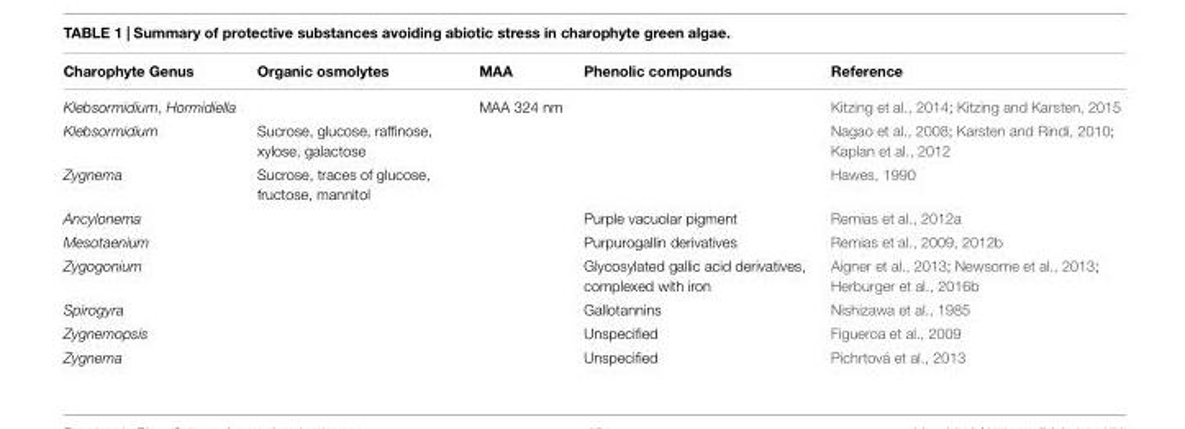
<table><thead><tr><td>Charophyte Genus</td><td>Organic osmolytes</td><td>MAA</td><td>Phenolic compounds</td><td>Reference</td></tr></thead><tbody><tr><td>Klebsormidium, Hormidiella</td><td></td><td>MAA 324 nm</td><td></td><td>Kitzing et al., 2014; Kitzing and Karsten, 2015</td></tr><tr><td>Klebsormidium</td><td>Sucrose, glucose, raffinose, xylose, galactose</td><td></td><td></td><td>Nagao et al., 2008; Karsten and Rindi, 2010; Kaplan et al., 2012</td></tr><tr><td>Zygnema</td><td>Sucrose, traces of glucose, fructose, mannitol</td><td></td><td></td><td>Hawes, 1990</td></tr><tr><td>Ancylonema</td><td></td><td></td><td>Purple vacuolar pigment</td><td>Remias et al., 2012a</td></tr><tr><td>Mesotaenium</td><td></td><td></td><td>Purpurogallin derivatives</td><td>Remias et al., 2009, 2012b</td></tr><tr><td>Zygogonium</td><td></td><td></td><td>Glycosylated gallic acid derivatives, complexed with iron</td><td>Aigner et al., 2013; Newsome et al., 2013; Herburger et al., 2016b</td></tr><tr><td>Spirogyra</td><td></td><td></td><td>Gallotannins</td><td>Nishizawa et al., 1985</td></tr><tr><td>Zygnemopsis</td><td></td><td></td><td>Unspecified</td><td>Figueroa et al., 2009</td></tr><tr><td>Zygnema</td><td></td><td></td><td>Unspecified</td><td>Pichrtová et al., 2013</td></tr></tbody></table>